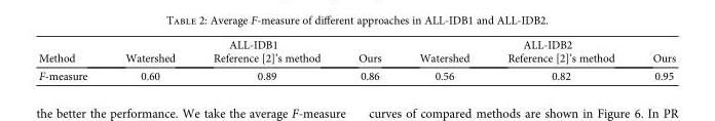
<table><thead><tr><td rowspan="2">Method</td><td colspan="3">ALL-IDB1</td><td colspan="3">ALL-IDB2</td></tr><tr><td>Watershed</td><td>Reference [2]’s method</td><td>Ours</td><td>Watershed</td><td>Reference [2]’s method</td><td>Ours</td></tr></thead><tbody><tr><td>F-measure</td><td>0.60</td><td>0.89</td><td>0.86</td><td>0.56</td><td>0.82</td><td>0.95</td></tr></tbody></table>